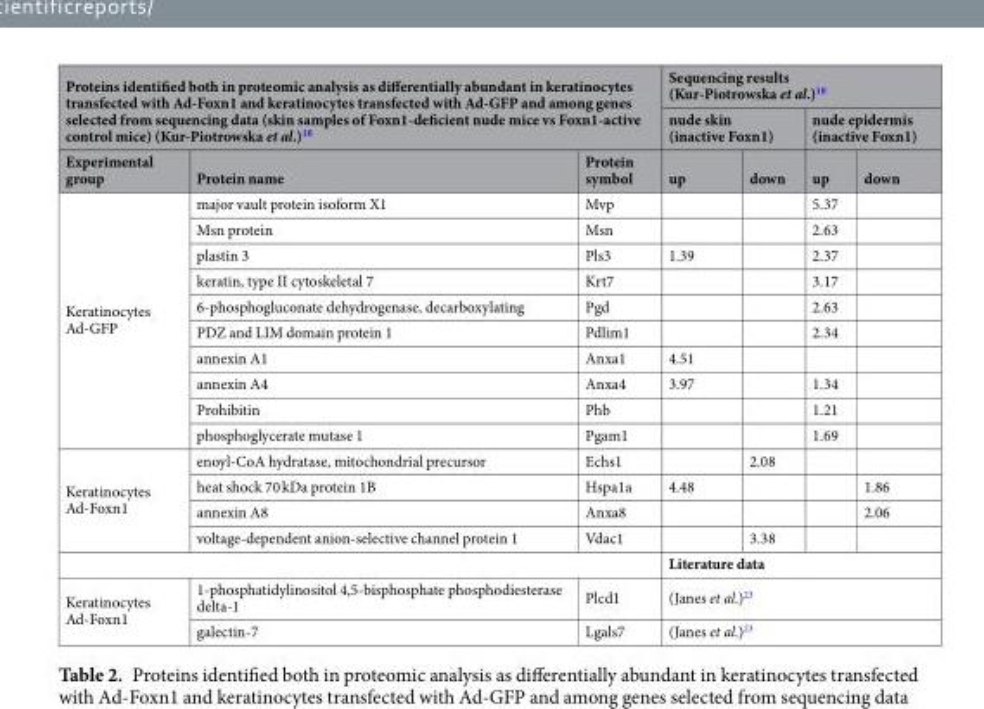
<table><thead><tr><td rowspan="2" colspan="3">Proteins identified both in proteomic analysis as differentially abundant in keratinocytes transfected with Ad-Foxn1 and keratinocytes transfected with Ad-GFP and among genes selected from sequencing data (skin samples of Foxn1-deficient nude mice vs Foxn1-active control mice) (Kur-Piotrowska et al.)<sup>10</sup></td><td colspan="4">Sequencing results (Kur-Piotrowska et al.)<sup>10</sup></td></tr><tr><td colspan="2">nude skin (inactive Foxn1)</td><td colspan="2">nude epidermis (inactive Foxn1)</td></tr><tr><td>Experimental group</td><td>Protein name</td><td>Protein symbol</td><td>up</td><td>down</td><td>up</td><td>down</td></tr></thead><tbody><tr><td rowspan="10">Keratinocytes Ad-GFP</td><td>major vault protein isoform X1</td><td>Mvp</td><td></td><td></td><td>5.37</td><td></td></tr><tr><td>Msn protein</td><td>Msn</td><td></td><td></td><td>2.63</td><td></td></tr><tr><td>plastin 3</td><td>Pls3</td><td>1.39</td><td></td><td>2.37</td><td></td></tr><tr><td>keratin, type II cytoskeletal 7</td><td>Krt7</td><td></td><td></td><td>3.17</td><td></td></tr><tr><td>6-phosphogluconate dehydrogenase, decarboxylating</td><td>Pgd</td><td></td><td></td><td>2.63</td><td></td></tr><tr><td>PDZ and LIM domain protein 1</td><td>Pdlim1</td><td></td><td></td><td>2.34</td><td></td></tr><tr><td>annexin A1</td><td>Anxa1</td><td>4.51</td><td></td><td></td><td></td></tr><tr><td>annexin A4</td><td>Anxa4</td><td>3.97</td><td></td><td>1.34</td><td></td></tr><tr><td>Prohibitin</td><td>Phb</td><td></td><td></td><td>1.21</td><td></td></tr><tr><td>phosphoglycerate mutase 1</td><td>Pgam1</td><td></td><td></td><td>1.69</td><td></td></tr><tr><td rowspan="4">Keratinocytes Ad-Foxn1</td><td>enoyl-CoA hydratase, mitochondrial precursor</td><td>Echs1</td><td></td><td>2.08</td><td></td><td></td></tr><tr><td>heat shock 70 kDa protein 1B</td><td>Hspa1a</td><td>4.48</td><td></td><td></td><td>1.86</td></tr><tr><td>annexin A8</td><td>Anxa8</td><td></td><td></td><td></td><td>2.06</td></tr><tr><td>voltage-dependent anion-selective channel protein 1</td><td>Vdac1</td><td></td><td>3.38</td><td></td><td></td></tr><tr><td colspan="3"></td><td colspan="4">Literature data</td></tr><tr><td rowspan="2">Keratinocytes Ad-Foxn1</td><td>1-phosphatidylinositol 4,5-bisphosphate phosphodiesterase delta-1</td><td>Plcd1</td><td colspan="4">(Janes et al.)<sup>23</sup></td></tr><tr><td>galectin-7</td><td>Lgals7</td><td colspan="4">(Janes et al.)<sup>23</sup></td></tr></tbody></table>